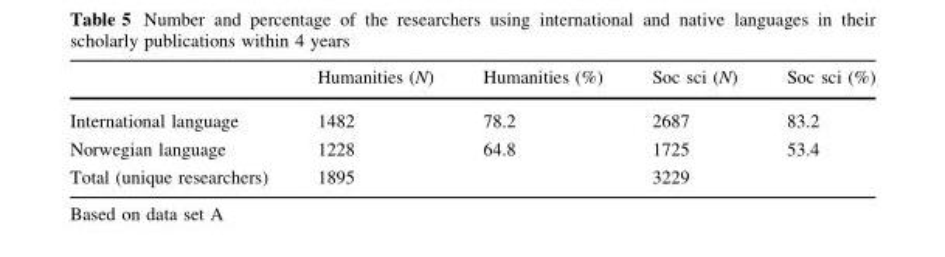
<table><thead><tr><td></td><td>Humanities (N)</td><td>Humanities (%)</td><td>Soc sci (N)</td><td>Soc sci (%)</td></tr></thead><tbody><tr><td>International language</td><td>1482</td><td>78.2</td><td>2687</td><td>83.2</td></tr><tr><td>Norwegian language</td><td>1228</td><td>64.8</td><td>1725</td><td>53.4</td></tr><tr><td>Total (unique researchers)</td><td>1895</td><td></td><td>3229</td><td></td></tr></tbody></table>